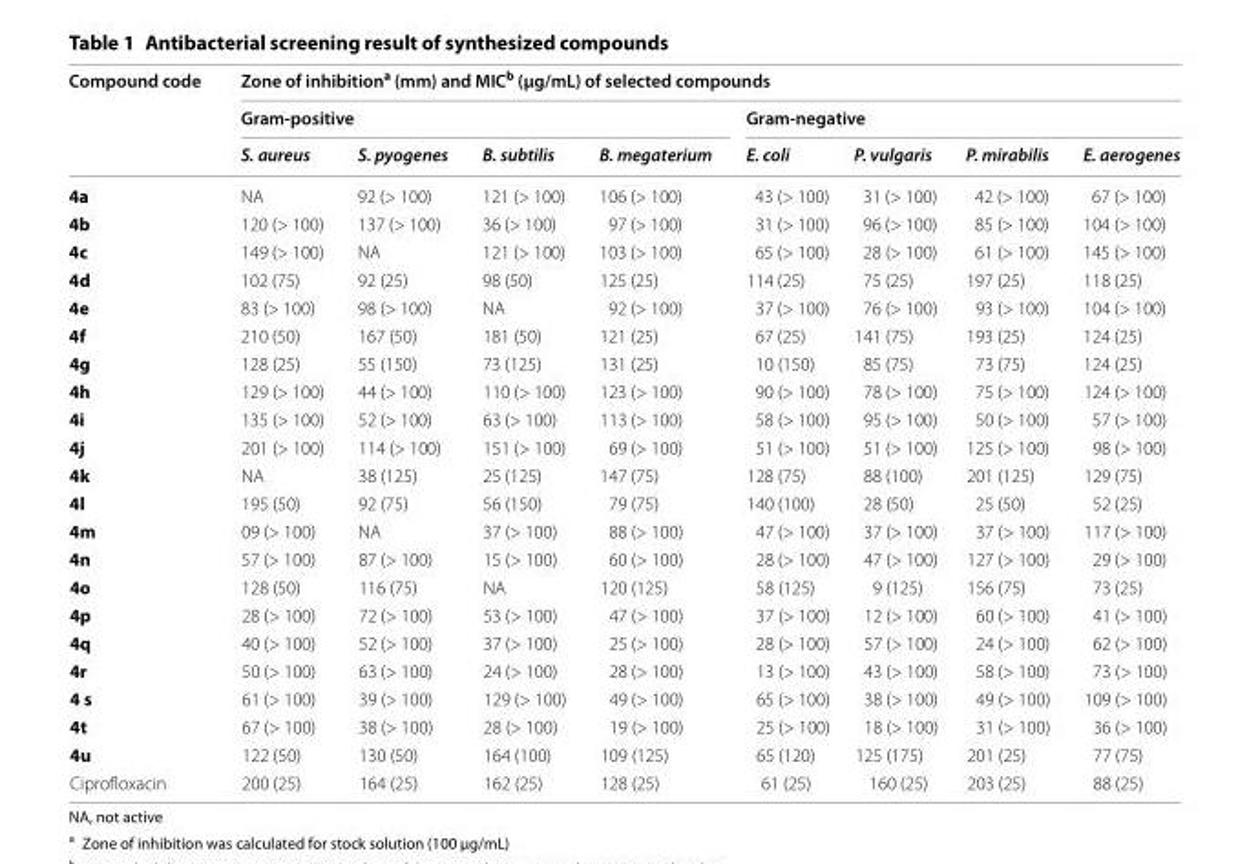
<table><thead><tr><td rowspan="3">Compound code</td><td colspan="8">Zone of inhibition<sup>a</sup> (mm) and MIC<sup>b</sup> (μg/mL) of selected compounds</td></tr><tr><td colspan="4">Gram-positive</td><td colspan="4">Gram-negative</td></tr><tr><td>S. aureus</td><td>S. pyogenes</td><td>B. subtilis</td><td>B. megaterium</td><td>E. coli</td><td>P. vulgaris</td><td>P. mirabilis</td><td>E. aerogenes</td></tr></thead><tbody><tr><td>4a</td><td>NA</td><td>92 (&gt; 100)</td><td>121 (&gt; 100)</td><td>106 (&gt; 100)</td><td>43 (&gt; 100)</td><td>31 (&gt; 100)</td><td>42 (&gt; 100)</td><td>67 (&gt; 100)</td></tr><tr><td>4b</td><td>120 (&gt; 100)</td><td>137 (&gt; 100)</td><td>36 (&gt; 100)</td><td>97 (&gt; 100)</td><td>31 (&gt; 100)</td><td>96 (&gt; 100)</td><td>85 (&gt; 100)</td><td>104 (&gt; 100)</td></tr><tr><td>4c</td><td>149 (&gt; 100)</td><td>NA</td><td>121 (&gt; 100)</td><td>103 (&gt; 100)</td><td>65 (&gt; 100)</td><td>28 (&gt; 100)</td><td>61 (&gt; 100)</td><td>145 (&gt; 100)</td></tr><tr><td>4d</td><td>102 (75)</td><td>92 (25)</td><td>98 (50)</td><td>125 (25)</td><td>114 (25)</td><td>75 (25)</td><td>197 (25)</td><td>118 (25)</td></tr><tr><td>4e</td><td>83 (&gt; 100)</td><td>98 (&gt; 100)</td><td>NA</td><td>92 (&gt; 100)</td><td>37 (&gt; 100)</td><td>76 (&gt; 100)</td><td>93 (&gt; 100)</td><td>104 (&gt; 100)</td></tr><tr><td>4f</td><td>210 (50)</td><td>167 (50)</td><td>181 (50)</td><td>121 (25)</td><td>67 (25)</td><td>141 (75)</td><td>193 (25)</td><td>124 (25)</td></tr><tr><td>4g</td><td>128 (25)</td><td>55 (150)</td><td>73 (125)</td><td>131 (25)</td><td>10 (150)</td><td>85 (75)</td><td>73 (75)</td><td>124 (25)</td></tr><tr><td>4h</td><td>129 (&gt; 100)</td><td>44 (&gt; 100)</td><td>110 (&gt; 100)</td><td>123 (&gt; 100)</td><td>90 (&gt; 100)</td><td>78 (&gt; 100)</td><td>75 (&gt; 100)</td><td>124 (&gt; 100)</td></tr><tr><td>4i</td><td>135 (&gt; 100)</td><td>52 (&gt; 100)</td><td>63 (&gt; 100)</td><td>113 (&gt; 100)</td><td>58 (&gt; 100)</td><td>95 (&gt; 100)</td><td>50 (&gt; 100)</td><td>57 (&gt; 100)</td></tr><tr><td>4j</td><td>201 (&gt; 100)</td><td>114 (&gt; 100)</td><td>151 (&gt; 100)</td><td>69 (&gt; 100)</td><td>51 (&gt; 100)</td><td>51 (&gt; 100)</td><td>125 (&gt; 100)</td><td>98 (&gt; 100)</td></tr><tr><td>4k</td><td>NA</td><td>38 (125)</td><td>25 (125)</td><td>147 (75)</td><td>128 (75)</td><td>88 (100)</td><td>201 (125)</td><td>129 (75)</td></tr><tr><td>4l</td><td>195 (50)</td><td>92 (75)</td><td>56 (150)</td><td>79 (75)</td><td>140 (100)</td><td>28 (50)</td><td>25 (50)</td><td>52 (25)</td></tr><tr><td>4m</td><td>09 (&gt; 100)</td><td>NA</td><td>37 (&gt; 100)</td><td>88 (&gt; 100)</td><td>47 (&gt; 100)</td><td>37 (&gt; 100)</td><td>37 (&gt; 100)</td><td>117 (&gt; 100)</td></tr><tr><td>4n</td><td>57 (&gt; 100)</td><td>87 (&gt; 100)</td><td>15 (&gt; 100)</td><td>60 (&gt; 100)</td><td>28 (&gt; 100)</td><td>47 (&gt; 100)</td><td>127 (&gt; 100)</td><td>29 (&gt; 100)</td></tr><tr><td>4o</td><td>128 (50)</td><td>116 (75)</td><td>NA</td><td>120 (125)</td><td>58 (125)</td><td>9 (125)</td><td>156 (75)</td><td>73 (25)</td></tr><tr><td>4p</td><td>28 (&gt; 100)</td><td>72 (&gt; 100)</td><td>53 (&gt; 100)</td><td>47 (&gt; 100)</td><td>37 (&gt; 100)</td><td>12 (&gt; 100)</td><td>60 (&gt; 100)</td><td>41 (&gt; 100)</td></tr><tr><td>4q</td><td>40 (&gt; 100)</td><td>52 (&gt; 100)</td><td>37 (&gt; 100)</td><td>25 (&gt; 100)</td><td>28 (&gt; 100)</td><td>57 (&gt; 100)</td><td>24 (&gt; 100)</td><td>62 (&gt; 100)</td></tr><tr><td>4r</td><td>50 (&gt; 100)</td><td>63 (&gt; 100)</td><td>24 (&gt; 100)</td><td>28 (&gt; 100)</td><td>13 (&gt; 100)</td><td>43 (&gt; 100)</td><td>58 (&gt; 100)</td><td>73 (&gt; 100)</td></tr><tr><td>4 s</td><td>61 (&gt; 100)</td><td>39 (&gt; 100)</td><td>129 (&gt; 100)</td><td>49 (&gt; 100)</td><td>65 (&gt; 100)</td><td>38 (&gt; 100)</td><td>49 (&gt; 100)</td><td>109 (&gt; 100)</td></tr><tr><td>4t</td><td>67 (&gt; 100)</td><td>38 (&gt; 100)</td><td>28 (&gt; 100)</td><td>19 (&gt; 100)</td><td>25 (&gt; 100)</td><td>18 (&gt; 100)</td><td>31 (&gt; 100)</td><td>36 (&gt; 100)</td></tr><tr><td>4u</td><td>122 (50)</td><td>130 (50)</td><td>164 (100)</td><td>109 (125)</td><td>65 (120)</td><td>125 (175)</td><td>201 (25)</td><td>77 (75)</td></tr><tr><td>Ciprofloxacin</td><td>200 (25)</td><td>164 (25)</td><td>162 (25)</td><td>128 (25)</td><td>61 (25)</td><td>160 (25)</td><td>203 (25)</td><td>88 (25)</td></tr></tbody></table>